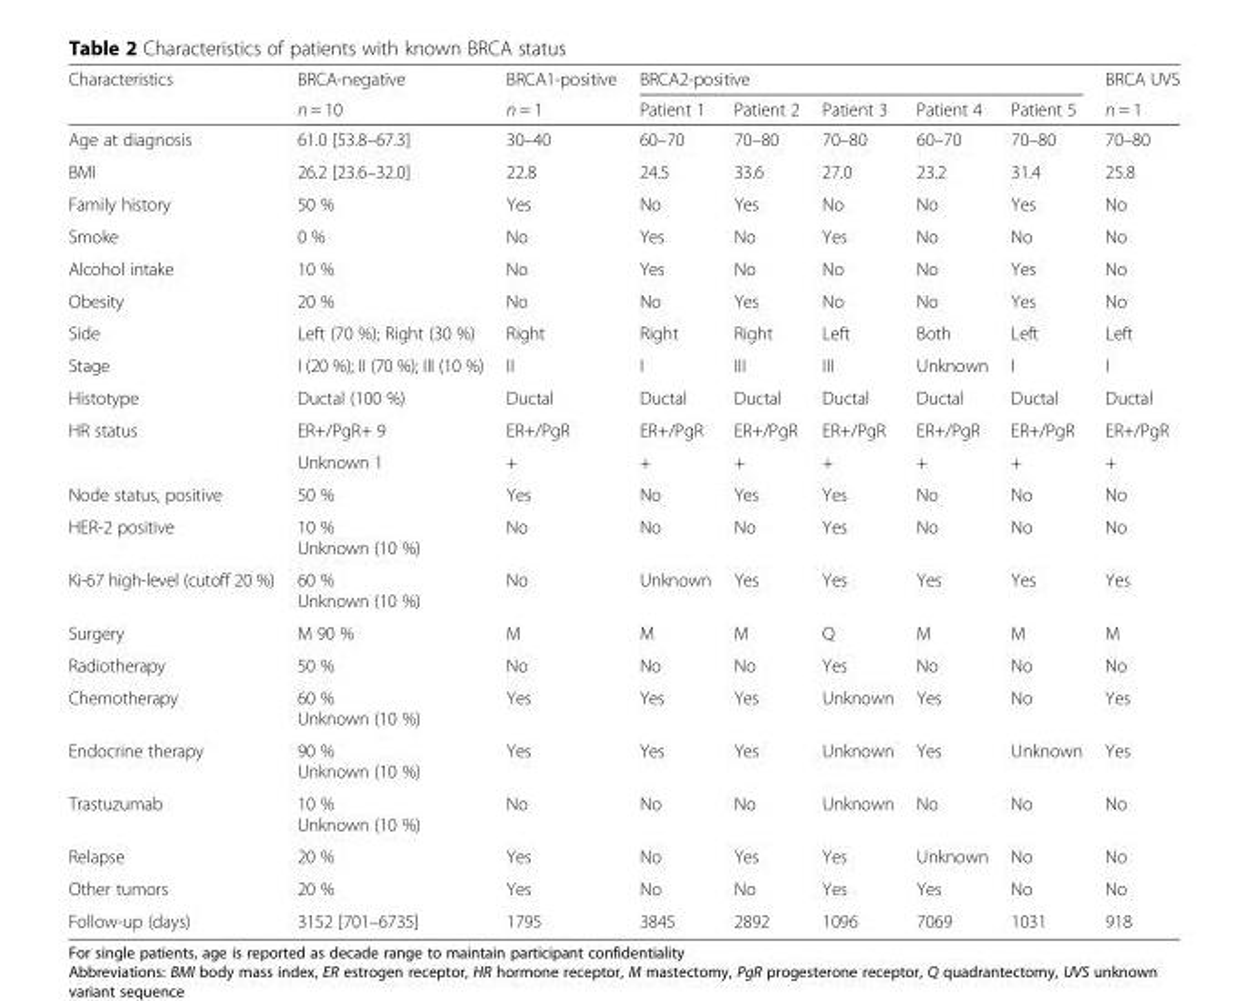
<table><thead><tr><td rowspan="2">Characteristics</td><td rowspan="2">BRCA-negative n = 10</td><td rowspan="2">BRCA1-positive n = 1</td><td colspan="5">BRCA2-positive</td><td rowspan="2">BRCA UVS n = 1</td></tr><tr><td>Patient 1</td><td>Patient 2</td><td>Patient 3</td><td>Patient 4</td><td>Patient 5</td></tr></thead><tbody><tr><td>Age at diagnosis</td><td>61.0 [53.8–67.3]</td><td>30–40</td><td>60–70</td><td>70–80</td><td>70–80</td><td>60–70</td><td>70–80</td><td>70–80</td></tr><tr><td>BMI</td><td>26.2 [23.6–32.0]</td><td>22.8</td><td>24.5</td><td>33.6</td><td>27.0</td><td>23.2</td><td>31.4</td><td>25.8</td></tr><tr><td>Family history</td><td>50 %</td><td>Yes</td><td>No</td><td>Yes</td><td>No</td><td>No</td><td>Yes</td><td>No</td></tr><tr><td>Smoke</td><td>0 %</td><td>No</td><td>Yes</td><td>No</td><td>Yes</td><td>No</td><td>No</td><td>No</td></tr><tr><td>Alcohol intake</td><td>10 %</td><td>No</td><td>Yes</td><td>No</td><td>No</td><td>No</td><td>Yes</td><td>No</td></tr><tr><td>Obesity</td><td>20 %</td><td>No</td><td>No</td><td>Yes</td><td>No</td><td>No</td><td>Yes</td><td>No</td></tr><tr><td>Side</td><td>Left (70 %); Right (30 %)</td><td>Right</td><td>Right</td><td>Right</td><td>Left</td><td>Both</td><td>Left</td><td>Left</td></tr><tr><td>Stage</td><td>I (20 %); II (70 %); III (10 %)</td><td>II</td><td>I</td><td>III</td><td>III</td><td>Unknown</td><td>I</td><td>I</td></tr><tr><td>Histotype</td><td>Ductal (100 %)</td><td>Ductal</td><td>Ductal</td><td>Ductal</td><td>Ductal</td><td>Ductal</td><td>Ductal</td><td>Ductal</td></tr><tr><td rowspan="2">HR status</td><td>ER+/PgR+ 9</td><td>ER+/PgR</td><td>ER+/PgR</td><td>ER+/PgR</td><td>ER+/PgR</td><td>ER+/PgR</td><td>ER+/PgR</td><td>ER+/PgR</td></tr><tr><td>Unknown 1</td><td>+</td><td>+</td><td>+</td><td>+</td><td>+</td><td>+</td><td>+</td></tr><tr><td>Node status, positive</td><td>50 %</td><td>Yes</td><td>No</td><td>Yes</td><td>Yes</td><td>No</td><td>No</td><td>No</td></tr><tr><td>HER-2 positive</td><td>10 % Unknown (10 %)</td><td>No</td><td>No</td><td>No</td><td>Yes</td><td>No</td><td>No</td><td>No</td></tr><tr><td>Ki-67 high-level (cutoff 20 %)</td><td>60 % Unknown (10 %)</td><td>No</td><td>Unknown</td><td>Yes</td><td>Yes</td><td>Yes</td><td>Yes</td><td>Yes</td></tr><tr><td>Surgery</td><td>M 90 %</td><td>M</td><td>M</td><td>M</td><td>Q</td><td>M</td><td>M</td><td>M</td></tr><tr><td>Radiotherapy</td><td>50 %</td><td>No</td><td>No</td><td>No</td><td>Yes</td><td>No</td><td>No</td><td>No</td></tr><tr><td>Chemotherapy</td><td>60 % Unknown (10 %)</td><td>Yes</td><td>Yes</td><td>Yes</td><td>Unknown</td><td>Yes</td><td>No</td><td>Yes</td></tr><tr><td>Endocrine therapy</td><td>90 % Unknown (10 %)</td><td>Yes</td><td>Yes</td><td>Yes</td><td>Unknown</td><td>Yes</td><td>Unknown</td><td>Yes</td></tr><tr><td>Trastuzumab</td><td>10 % Unknown (10 %)</td><td>No</td><td>No</td><td>No</td><td>Unknown</td><td>No</td><td>No</td><td>No</td></tr><tr><td>Relapse</td><td>20 %</td><td>Yes</td><td>No</td><td>Yes</td><td>Yes</td><td>Unknown</td><td>No</td><td>No</td></tr><tr><td>Other tumors</td><td>20 %</td><td>Yes</td><td>No</td><td>No</td><td>Yes</td><td>Yes</td><td>No</td><td>No</td></tr><tr><td>Follow-up (days)</td><td>3152 [701–6735]</td><td>1795</td><td>3845</td><td>2892</td><td>1096</td><td>7069</td><td>1031</td><td>918</td></tr></tbody></table>